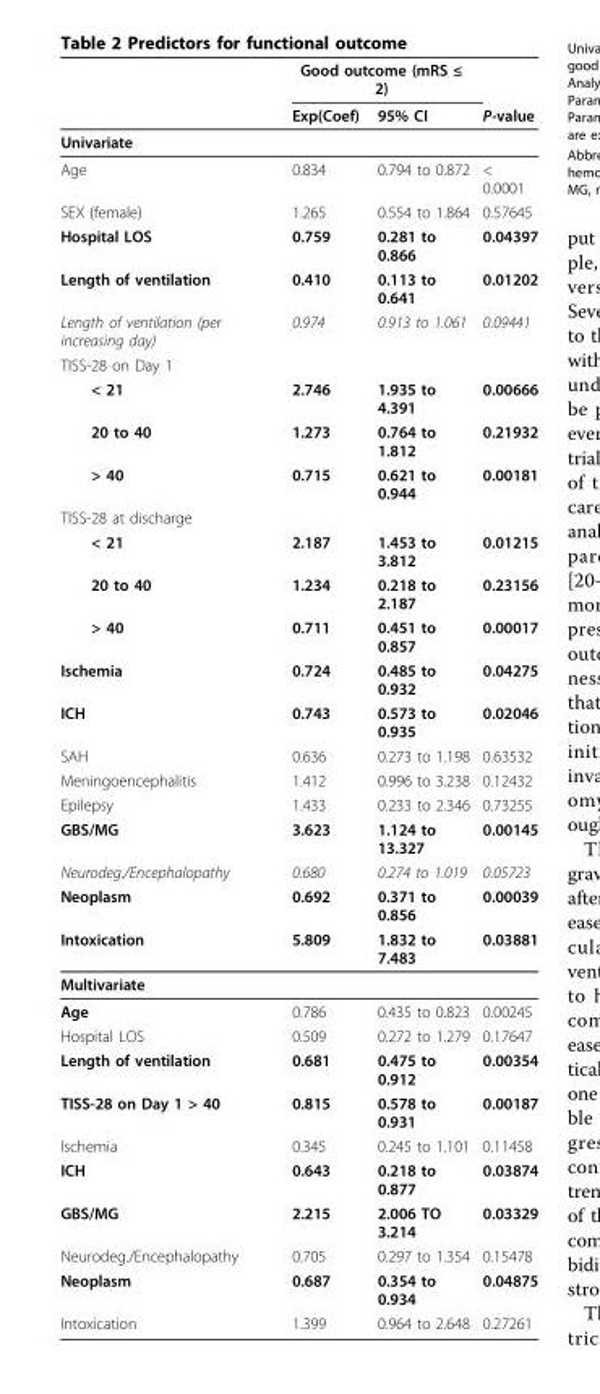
<table><thead><tr><td rowspan="2"></td><td colspan="2">Good outcome (mRS ≤ 2)</td><td rowspan="2">P-value</td></tr><tr><td>Exp(Coef)</td><td>95% CI</td></tr></thead><tbody><tr><td colspan="4">Univariate</td></tr><tr><td>Age</td><td>0.834</td><td>0.794 to 0.872</td><td>&lt; 0.0001</td></tr><tr><td>SEX (female)</td><td>1.265</td><td>0.554 to 1.864</td><td>0.57645</td></tr><tr><td>Hospital LOS</td><td>0.759</td><td>0.281 to 0.866</td><td>0.04397</td></tr><tr><td>Length of ventilation</td><td>0.410</td><td>0.113 to 0.641</td><td>0.01202</td></tr><tr><td>Length of ventilation (per increasing day)</td><td>0.974</td><td>0.913 to 1.061</td><td>0.09441</td></tr><tr><td colspan="4">TISS-28 on Day 1</td></tr><tr><td>&lt; 21</td><td>2.746</td><td>1.935 to 4.391</td><td>0.00666</td></tr><tr><td>20 to 40</td><td>1.273</td><td>0.764 to 1.812</td><td>0.21932</td></tr><tr><td>&gt; 40</td><td>0.715</td><td>0.621 to 0.944</td><td>0.00181</td></tr><tr><td colspan="4">TISS-28 at discharge</td></tr><tr><td>&lt; 21</td><td>2.187</td><td>1.453 to 3.812</td><td>0.01215</td></tr><tr><td>20 to 40</td><td>1.234</td><td>0.218 to 2.187</td><td>0.23156</td></tr><tr><td>&gt; 40</td><td>0.711</td><td>0.451 to 0.857</td><td>0.00017</td></tr><tr><td>Ischemia</td><td>0.724</td><td>0.485 to 0.932</td><td>0.04275</td></tr><tr><td>ICH</td><td>0.743</td><td>0.573 to 0.935</td><td>0.02046</td></tr><tr><td>SAH</td><td>0.636</td><td>0.273 to 1.198</td><td>0.63532</td></tr><tr><td>Meningoencephalitis</td><td>1.412</td><td>0.996 to 3.238</td><td>0.12432</td></tr><tr><td>Epilepsy</td><td>1.433</td><td>0.233 to 2.346</td><td>0.73255</td></tr><tr><td>GBS/MG</td><td>3.623</td><td>1.124 to 13.327</td><td>0.00145</td></tr><tr><td>Neurodeg./Encephalopathy</td><td>0.680</td><td>0.274 to 1.019</td><td>0.05723</td></tr><tr><td>Neoplasm</td><td>0.692</td><td>0.371 to 0.856</td><td>0.00039</td></tr><tr><td>Intoxication</td><td>5.809</td><td>1.832 to 7.483</td><td>0.03881</td></tr><tr><td colspan="4">Multivariate</td></tr><tr><td>Age</td><td>0.786</td><td>0.435 to 0.823</td><td>0.00245</td></tr><tr><td>Hospital LOS</td><td>0.509</td><td>0.272 to 1.279</td><td>0.17647</td></tr><tr><td>Length of ventilation</td><td>0.681</td><td>0.475 to 0.912</td><td>0.00354</td></tr><tr><td>TISS-28 on Day 1 &gt; 40</td><td>0.815</td><td>0.578 to 0.931</td><td>0.00187</td></tr><tr><td>Ischemia</td><td>0.345</td><td>0.245 to 1.101</td><td>0.11458</td></tr><tr><td>ICH</td><td>0.643</td><td>0.218 to 0.877</td><td>0.03874</td></tr><tr><td>GBS/MG</td><td>2.215</td><td>2.006 TO 3.214</td><td>0.03329</td></tr><tr><td>Neurodeg./Encephalopathy</td><td>0.705</td><td>0.297 to 1.354</td><td>0.15478</td></tr><tr><td>Neoplasm</td><td>0.687</td><td>0.354 to 0.934</td><td>0.04875</td></tr><tr><td>Intoxication</td><td>1.399</td><td>0.964 to 2.648</td><td>0.27261</td></tr></tbody></table>